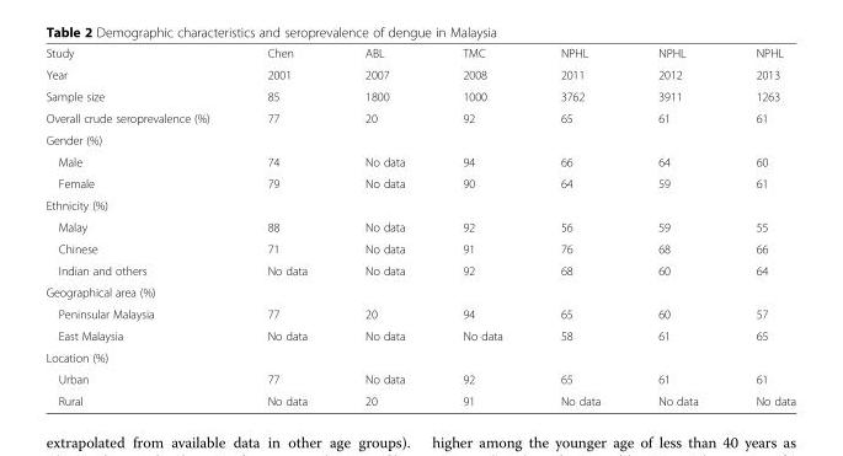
<table><tbody><tr><td>Study</td><td>Chen</td><td>ABL</td><td>TMC</td><td>NPHL</td><td>NPHL</td><td>NPHL</td></tr><tr><td>Year</td><td>2001</td><td>2007</td><td>2008</td><td>2011</td><td>2012</td><td>2013</td></tr><tr><td>Sample size</td><td>85</td><td>1800</td><td>1000</td><td>3762</td><td>3911</td><td>1263</td></tr><tr><td>Overall crude seroprevalence (%)</td><td>77</td><td>20</td><td>92</td><td>65</td><td>61</td><td>61</td></tr><tr><td colspan="7">Gender (%)</td></tr><tr><td>Male</td><td>74</td><td>No data</td><td>94</td><td>66</td><td>64</td><td>60</td></tr><tr><td>Female</td><td>79</td><td>No data</td><td>90</td><td>64</td><td>59</td><td>61</td></tr><tr><td colspan="7">Ethnicity (%)</td></tr><tr><td>Malay</td><td>88</td><td>No data</td><td>92</td><td>56</td><td>59</td><td>55</td></tr><tr><td>Chinese</td><td>71</td><td>No data</td><td>91</td><td>76</td><td>68</td><td>66</td></tr><tr><td>Indian and others</td><td>No data</td><td>No data</td><td>92</td><td>68</td><td>60</td><td>64</td></tr><tr><td colspan="7">Geographical area (%)</td></tr><tr><td>Peninsular Malaysia</td><td>77</td><td>20</td><td>94</td><td>65</td><td>60</td><td>57</td></tr><tr><td>East Malaysia</td><td>No data</td><td>No data</td><td>No data</td><td>58</td><td>61</td><td>65</td></tr><tr><td colspan="7">Location (%)</td></tr><tr><td>Urban</td><td>77</td><td>No data</td><td>92</td><td>65</td><td>61</td><td>61</td></tr><tr><td>Rural</td><td>No data</td><td>20</td><td>91</td><td>No data</td><td>No data</td><td>No data</td></tr></tbody></table>